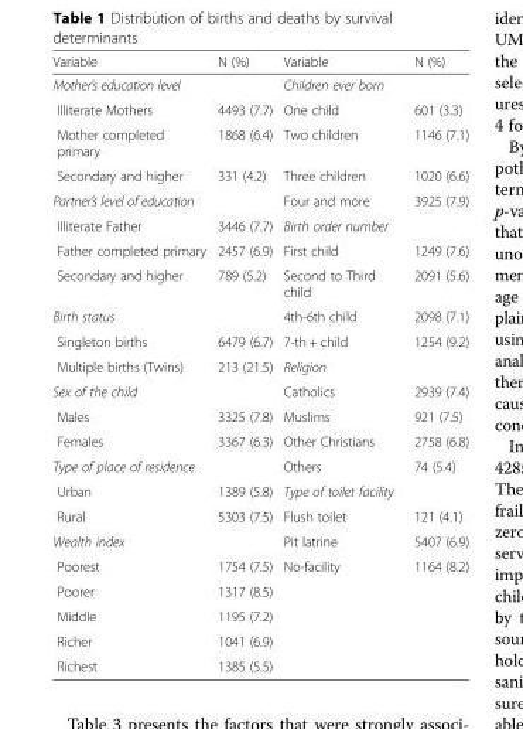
<table><thead><tr><td>Variable</td><td>N (%)</td><td>Variable</td><td>N (%)</td></tr></thead><tbody><tr><td>Mother’s education level</td><td></td><td>Children ever born</td><td></td></tr><tr><td>Illiterate Mothers</td><td>4493 (7.7)</td><td>One child</td><td>601 (3.3)</td></tr><tr><td>Mother completed primary</td><td>1868 (6.4)</td><td>Two children</td><td>1146 (7.1)</td></tr><tr><td>Secondary and higher</td><td>331 (4.2)</td><td>Three children</td><td>1020 (6.6)</td></tr><tr><td>Partner’s level of education</td><td></td><td>Four and more</td><td>3925 (7.9)</td></tr><tr><td>Illiterate Father</td><td>3446 (7.7)</td><td>Birth order number</td><td></td></tr><tr><td>Father completed primary</td><td>2457 (6.9)</td><td>First child</td><td>1249 (7.6)</td></tr><tr><td>Secondary and higher</td><td>789 (5.2)</td><td>Second to Third child</td><td>2091 (5.6)</td></tr><tr><td>Birth status</td><td></td><td>4th-6th child</td><td>2098 (7.1)</td></tr><tr><td>Singleton births</td><td>6479 (6.7)</td><td>7-th + child</td><td>1254 (9.2)</td></tr><tr><td>Multiple births (Twins)</td><td>213 (21.5)</td><td>Religion</td><td></td></tr><tr><td>Sex of the child</td><td></td><td>Catholics</td><td>2939 (7.4)</td></tr><tr><td>Males</td><td>3325 (7.8)</td><td>Muslims</td><td>921 (7.5)</td></tr><tr><td>Females</td><td>3367 (6.3)</td><td>Other Christians</td><td>2758 (6.8)</td></tr><tr><td>Type of place of residence</td><td></td><td>Others</td><td>74 (5.4)</td></tr><tr><td>Urban</td><td>1389 (5.8)</td><td>Type of toilet facility</td><td></td></tr><tr><td>Rural</td><td>5303 (7.5)</td><td>Flush toilet</td><td>121 (4.1)</td></tr><tr><td>Wealth index</td><td></td><td>Pit latrine</td><td>5407 (6.9)</td></tr><tr><td>Poorest</td><td>1754 (7.5)</td><td>No-facility</td><td>1164 (8.2)</td></tr><tr><td>Poorer</td><td>1317 (8.5)</td><td></td><td></td></tr><tr><td>Middle</td><td>1195 (7.2)</td><td></td><td></td></tr><tr><td>Richer</td><td>1041 (6.9)</td><td></td><td></td></tr><tr><td>Richest</td><td>1385 (5.5)</td><td></td><td></td></tr></tbody></table>